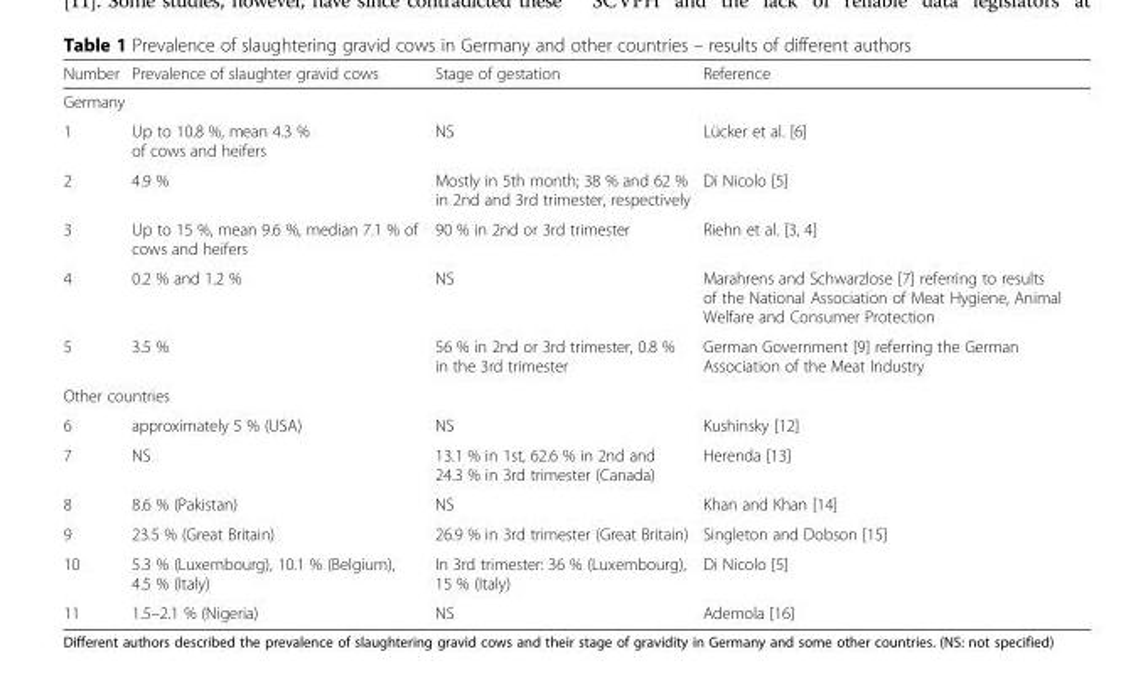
<table><thead><tr><td>Number</td><td>Prevalence of slaughter gravid cows</td><td>Stage of gestation</td><td>Reference</td></tr></thead><tbody><tr><td colspan="4">Germany</td></tr><tr><td>1</td><td>Up to 10.8 %, mean 4.3 % of cows and heifers</td><td>NS</td><td>Lücker et al. [6]</td></tr><tr><td>2</td><td>4.9 %</td><td>Mostly in 5th month; 38 % and 62 % in 2nd and 3rd trimester, respectively</td><td>Di Nicolo [5]</td></tr><tr><td>3</td><td>Up to 15 %, mean 9.6 %, median 7.1 % of cows and heifers</td><td>90 % in 2nd or 3rd trimester</td><td>Riehn et al. [3, 4]</td></tr><tr><td>4</td><td>0.2 % and 1.2 %</td><td>NS</td><td>Marahrens and Schwarzlose [7] referring to results of the National Association of Meat Hygiene, Animal Welfare and Consumer Protection</td></tr><tr><td>5</td><td>3.5 %</td><td>56 % in 2nd or 3rd trimester, 0.8 % in the 3rd trimester</td><td>German Government [9] referring the German Association of the Meat Industry</td></tr><tr><td colspan="4">Other countries</td></tr><tr><td>6</td><td>approximately 5 % (USA)</td><td>NS</td><td>Kushinsky [12]</td></tr><tr><td>7</td><td>NS</td><td>13.1 % in 1st, 62.6 % in 2nd and 24.3 % in 3rd trimester (Canada)</td><td>Herenda [13]</td></tr><tr><td>8</td><td>8.6 % (Pakistan)</td><td>NS</td><td>Khan and Khan [14]</td></tr><tr><td>9</td><td>23.5 % (Great Britain)</td><td>26.9 % in 3rd trimester (Great Britain)</td><td>Singleton and Dobson [15]</td></tr><tr><td>10</td><td>5.3 % (Luxembourg), 10.1 % (Belgium), 4.5 % (Italy)</td><td>In 3rd trimester: 36 % (Luxembourg), 15 % (Italy)</td><td>Di Nicolo [5]</td></tr><tr><td>11</td><td>1.5–2.1 % (Nigeria)</td><td>NS</td><td>Ademola [16]</td></tr></tbody></table>